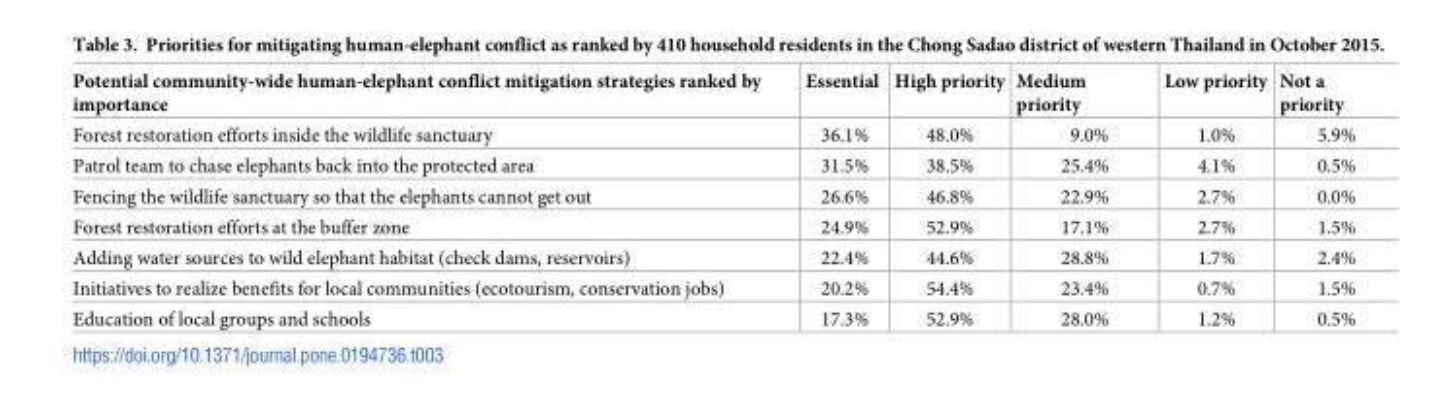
<table><thead><tr><td>Potential community-wide human-elephant conflict mitigation strategies ranked by importance</td><td>Essential</td><td>High priority</td><td>Medium priority</td><td>Low priority</td><td>Not a priority</td></tr></thead><tbody><tr><td>Forest restoration efforts inside the wildlife sanctuary</td><td>36.1%</td><td>48.0%</td><td>9.0%</td><td>1.0%</td><td>5.9%</td></tr><tr><td>Patrol team to chase elephants back into the protected area</td><td>31.5%</td><td>38.5%</td><td>25.4%</td><td>4.1%</td><td>0.5%</td></tr><tr><td>Fencing the wildlife sanctuary so that the elephants cannot get out</td><td>26.6%</td><td>46.8%</td><td>22.9%</td><td>2.7%</td><td>0.0%</td></tr><tr><td>Forest restoration efforts at the buffer zone</td><td>24.9%</td><td>52.9%</td><td>17.1%</td><td>2.7%</td><td>1.5%</td></tr><tr><td>Adding water sources to wild elephant habitat (check dams, reservoirs)</td><td>22.4%</td><td>44.6%</td><td>28.8%</td><td>1.7%</td><td>2.4%</td></tr><tr><td>Initiatives to realize benefits for local communities (ecotourism, conservation jobs)</td><td>20.2%</td><td>54.4%</td><td>23.4%</td><td>0.7%</td><td>1.5%</td></tr><tr><td>Education of local groups and schools</td><td>17.3%</td><td>52.9%</td><td>28.0%</td><td>1.2%</td><td>0.5%</td></tr></tbody></table>